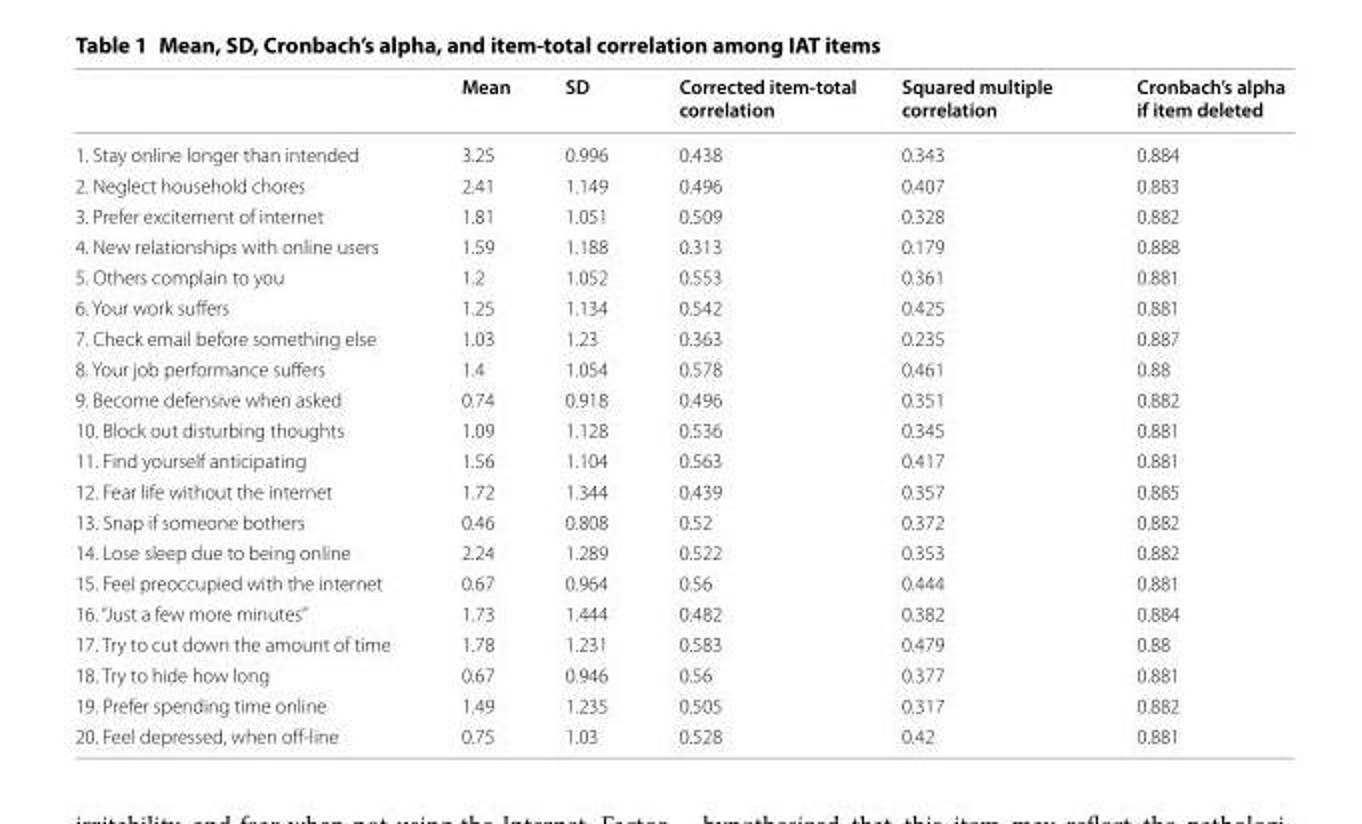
<table><thead><tr><td></td><td>Mean</td><td>SD</td><td>Corrected item-total correlation</td><td>Squared multiple correlation</td><td>Cronbach’s alpha if item deleted</td></tr></thead><tbody><tr><td>1. Stay online longer than intended</td><td>3.25</td><td>0.996</td><td>0.438</td><td>0.343</td><td>0.884</td></tr><tr><td>2. Neglect household chores</td><td>2.41</td><td>1.149</td><td>0.496</td><td>0.407</td><td>0.883</td></tr><tr><td>3. Prefer excitement of internet</td><td>1.81</td><td>1.051</td><td>0.509</td><td>0.328</td><td>0.882</td></tr><tr><td>4. New relationships with online users</td><td>1.59</td><td>1.188</td><td>0.313</td><td>0.179</td><td>0.888</td></tr><tr><td>5. Others complain to you</td><td>1.2</td><td>1.052</td><td>0.553</td><td>0.361</td><td>0.881</td></tr><tr><td>6. Your work suffers</td><td>1.25</td><td>1.134</td><td>0.542</td><td>0.425</td><td>0.881</td></tr><tr><td>7. Check email before something else</td><td>1.03</td><td>1.23</td><td>0.363</td><td>0.235</td><td>0.887</td></tr><tr><td>8. Your job performance suffers</td><td>1.4</td><td>1.054</td><td>0.578</td><td>0.461</td><td>0.88</td></tr><tr><td>9. Become defensive when asked</td><td>0.74</td><td>0.918</td><td>0.496</td><td>0.351</td><td>0.882</td></tr><tr><td>10. Block out disturbing thoughts</td><td>1.09</td><td>1.128</td><td>0.536</td><td>0.345</td><td>0.881</td></tr><tr><td>11. Find yourself anticipating</td><td>1.56</td><td>1.104</td><td>0.563</td><td>0.417</td><td>0.881</td></tr><tr><td>12. Fear life without the internet</td><td>1.72</td><td>1.344</td><td>0.439</td><td>0.357</td><td>0.885</td></tr><tr><td>13. Snap if someone bothers</td><td>0.46</td><td>0.808</td><td>0.52</td><td>0.372</td><td>0.882</td></tr><tr><td>14. Lose sleep due to being online</td><td>2.24</td><td>1.289</td><td>0.522</td><td>0.353</td><td>0.882</td></tr><tr><td>15. Feel preoccupied with the internet</td><td>0.67</td><td>0.964</td><td>0.56</td><td>0.444</td><td>0.881</td></tr><tr><td>16. “Just a few more minutes”</td><td>1.73</td><td>1.444</td><td>0.482</td><td>0.382</td><td>0.884</td></tr><tr><td>17. Try to cut down the amount of time</td><td>1.78</td><td>1.231</td><td>0.583</td><td>0.479</td><td>0.88</td></tr><tr><td>18. Try to hide how long</td><td>0.67</td><td>0.946</td><td>0.56</td><td>0.377</td><td>0.881</td></tr><tr><td>19. Prefer spending time online</td><td>1.49</td><td>1.235</td><td>0.505</td><td>0.317</td><td>0.882</td></tr><tr><td>20. Feel depressed, when off-line</td><td>0.75</td><td>1.03</td><td>0.528</td><td>0.42</td><td>0.881</td></tr></tbody></table>